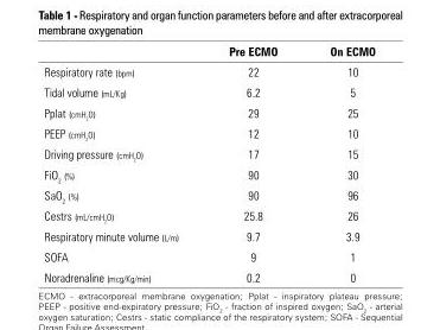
<table><thead><tr><td></td><td>Pre ECMO</td><td>On ECMO</td></tr></thead><tbody><tr><td>Respiratory rate (bpm)</td><td>22</td><td>10</td></tr><tr><td>Tidal volume (mL/Kg)</td><td>6.2</td><td>5</td></tr><tr><td>Pplat (cmH<sub>2</sub>O)</td><td>29</td><td>25</td></tr><tr><td>PEEP (cmH<sub>2</sub>O)</td><td>12</td><td>10</td></tr><tr><td>Driving pressure (cmH<sub>2</sub>O)</td><td>17</td><td>15</td></tr><tr><td>FiO<sub>2</sub> (%)</td><td>90</td><td>30</td></tr><tr><td>SaO<sub>2</sub> (%)</td><td>90</td><td>96</td></tr><tr><td>Cestrs (mL/cmH<sub>2</sub>O)</td><td>25.8</td><td>26</td></tr><tr><td>Respiratory minute volume (L/m)</td><td>9.7</td><td>3.9</td></tr><tr><td>SOFA</td><td>9</td><td>1</td></tr><tr><td>Noradrenaline (mcg/Kg/min)</td><td>0.2</td><td>0</td></tr></tbody></table>